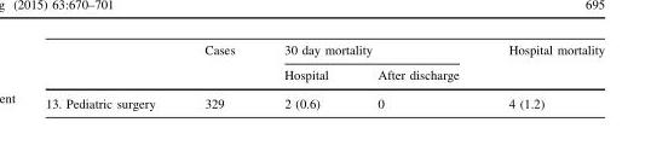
<table><thead><tr><td rowspan="2"></td><td rowspan="2">Cases</td><td colspan="2">30 day mortality</td><td rowspan="2">Hospital mortality</td></tr><tr><td>Hospital</td><td>After discharge</td></tr></thead><tbody><tr><td>13. Pediatric surgery</td><td>329</td><td>2 (0.6)</td><td>0</td><td>4 (1.2)</td></tr></tbody></table>